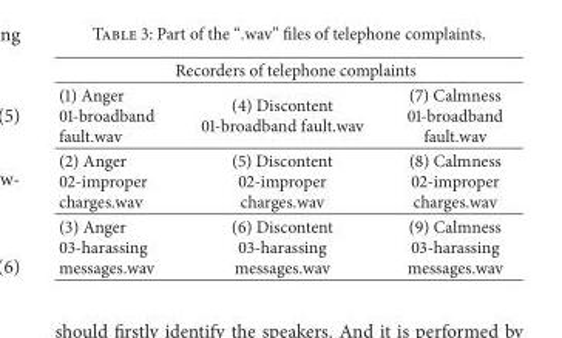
<table><thead><tr><td colspan="3">Recorders of telephone complaints</td></tr><tr><td>(1) Anger 01-broadband fault.wav</td><td>(4) Discontent 01-broadband fault.wav</td><td>(7) Calmness 01-broadband fault.wav</td></tr></thead><tbody><tr><td>(2) Anger 02-improper charges.wav</td><td>(5) Discontent 02-improper charges.wav</td><td>(8) Calmness 02-improper charges.wav</td></tr><tr><td>(3) Anger 03-harassing messages.wav</td><td>(6) Discontent 03-harassing messages.wav</td><td>(9) Calmness 03-harassing messages.wav</td></tr></tbody></table>